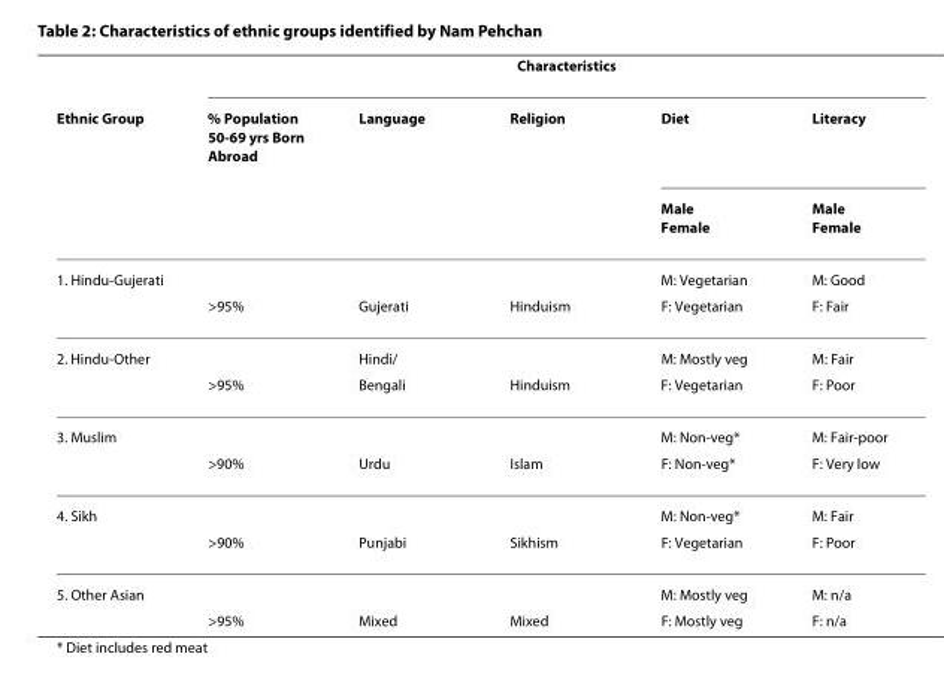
<table><thead><tr><td rowspan="3">Ethnic Group</td><td colspan="5">Characteristics</td></tr><tr><td rowspan="2">% Population 50-69 yrs Born Abroad</td><td rowspan="2">Language</td><td rowspan="2">Religion</td><td rowspan="2">Diet Male Female</td><td rowspan="2">Literacy Male Female</td></tr><tr></tr></thead><tbody><tr><td rowspan="2">1. Hindu-Gujerati</td><td></td><td></td><td></td><td>M: Vegetarian</td><td>M: Good</td></tr><tr><td>&gt;95%</td><td>Gujerati</td><td>Hinduism</td><td>F: Vegetarian</td><td>F: Fair</td></tr><tr><td rowspan="2">2. Hindu-Other</td><td></td><td>Hindi/</td><td></td><td>M: Mostly veg</td><td>M: Fair</td></tr><tr><td>&gt;95%</td><td>Bengali</td><td>Hinduism</td><td>F: Vegetarian</td><td>F: Poor</td></tr><tr><td rowspan="2">3. Muslim</td><td></td><td></td><td></td><td>M: Non-veg*</td><td>M: Fair-poor</td></tr><tr><td>&gt;90%</td><td>Urdu</td><td>Islam</td><td>F: Non-veg*</td><td>F: Very low</td></tr><tr><td rowspan="2">4. Sikh</td><td></td><td></td><td></td><td>M: Non-veg*</td><td>M: Fair</td></tr><tr><td>&gt;90%</td><td>Punjabi</td><td>Sikhism</td><td>F: Vegetarian</td><td>F: Poor</td></tr><tr><td rowspan="2">5. Other Asian</td><td></td><td></td><td></td><td>M: Mostly veg</td><td>M: n/a</td></tr><tr><td>&gt;95%</td><td>Mixed</td><td>Mixed</td><td>F: Mostly veg</td><td>F: n/a</td></tr></tbody></table>